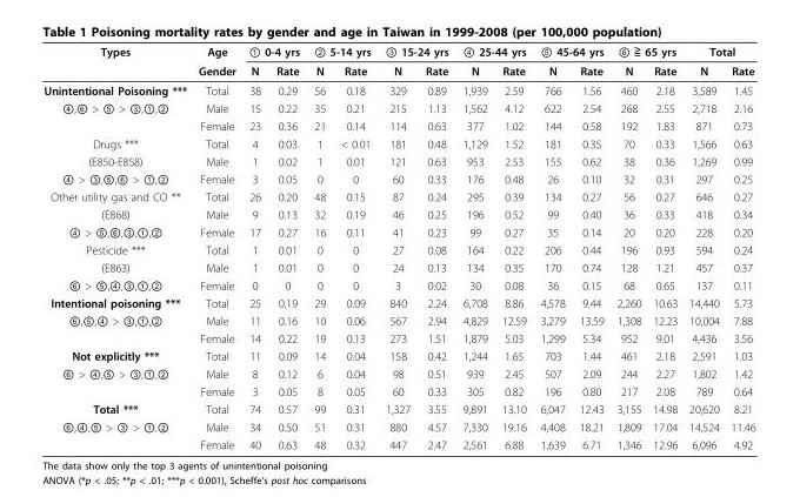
<table><thead><tr><td rowspan="2">Types</td><td rowspan="2">Age Gender</td><td colspan="2">① 0-4 yrs</td><td colspan="2">② 5-14 yrs</td><td colspan="2">③ 15-24 yrs</td><td colspan="2">④ 25-44 yrs</td><td colspan="2">⑤ 45-64 yrs</td><td colspan="2">⑥ ≧ 65 yrs</td><td colspan="2">Total</td></tr><tr><td>N</td><td>Rate</td><td>N</td><td>Rate</td><td>N</td><td>Rate</td><td>N</td><td>Rate</td><td>N</td><td>Rate</td><td>N</td><td>Rate</td><td>N</td><td>Rate</td></tr></thead><tbody><tr><td>Unintentional Poisoning ***</td><td>Total</td><td>38</td><td>0.29</td><td>56</td><td>0.18</td><td>329</td><td>0.89</td><td>1,939</td><td>2.59</td><td>766</td><td>1.56</td><td>460</td><td>2.18</td><td>3,589</td><td>1.45</td></tr><tr><td rowspan="2">④,⑥ &gt; ⑤ &gt; ③,①,②</td><td>Male</td><td>15</td><td>0.22</td><td>35</td><td>0.21</td><td>215</td><td>1.13</td><td>1,562</td><td>4.12</td><td>622</td><td>2.54</td><td>268</td><td>2.55</td><td>2,718</td><td>2.16</td></tr><tr><td>Female</td><td>23</td><td>0.36</td><td>21</td><td>0.14</td><td>114</td><td>0.63</td><td>377</td><td>1.02</td><td>144</td><td>0.58</td><td>192</td><td>1.83</td><td>871</td><td>0.73</td></tr><tr><td>Drugs ***</td><td>Total</td><td>4</td><td>0.03</td><td>1</td><td>&lt; 0.01</td><td>181</td><td>0.48</td><td>1,129</td><td>1.52</td><td>181</td><td>0.35</td><td>70</td><td>0.33</td><td>1,566</td><td>0.63</td></tr><tr><td>(E850-E858)</td><td>Male</td><td>1</td><td>0.02</td><td>1</td><td>0.01</td><td>121</td><td>0.63</td><td>953</td><td>2.53</td><td>155</td><td>0.62</td><td>38</td><td>0.36</td><td>1,269</td><td>0.99</td></tr><tr><td>④ &gt; ③,⑤,⑥ &gt; ①,②</td><td>Female</td><td>3</td><td>0.05</td><td>0</td><td>0</td><td>60</td><td>0.33</td><td>176</td><td>0.48</td><td>26</td><td>0.10</td><td>32</td><td>0.31</td><td>297</td><td>0.25</td></tr><tr><td>Other utility gas and CO **</td><td>Total</td><td>26</td><td>0.20</td><td>48</td><td>0.15</td><td>87</td><td>0.24</td><td>295</td><td>0.39</td><td>134</td><td>0.27</td><td>56</td><td>0.27</td><td>646</td><td>0.27</td></tr><tr><td>(E868)</td><td>Male</td><td>9</td><td>0.13</td><td>32</td><td>0.19</td><td>46</td><td>0.25</td><td>196</td><td>0.52</td><td>99</td><td>0.40</td><td>36</td><td>0.33</td><td>418</td><td>0.34</td></tr><tr><td>④ &gt; ⑤,⑥,③,①,②</td><td>Female</td><td>17</td><td>0.27</td><td>16</td><td>0.11</td><td>41</td><td>0.23</td><td>99</td><td>0.27</td><td>35</td><td>0.14</td><td>20</td><td>0.20</td><td>228</td><td>0.20</td></tr><tr><td>Pesticide ***</td><td>Total</td><td>1</td><td>0.01</td><td>0</td><td>0</td><td>27</td><td>0.08</td><td>164</td><td>0.22</td><td>206</td><td>0.44</td><td>196</td><td>0.93</td><td>594</td><td>0.24</td></tr><tr><td>(E863)</td><td>Male</td><td>1</td><td>0.01</td><td>0</td><td>0</td><td>24</td><td>0.13</td><td>134</td><td>0.35</td><td>170</td><td>0.74</td><td>128</td><td>1.21</td><td>457</td><td>0.37</td></tr><tr><td>⑥ &gt; ⑤,④,③,①,②</td><td>Female</td><td>0</td><td>0</td><td>0</td><td>0</td><td>3</td><td>0.02</td><td>30</td><td>0.08</td><td>36</td><td>0.15</td><td>68</td><td>0.65</td><td>137</td><td>0.11</td></tr><tr><td>Intentional poisoning ***</td><td>Total</td><td>25</td><td>0.19</td><td>29</td><td>0.09</td><td>840</td><td>2.24</td><td>6,708</td><td>8.86</td><td>4,578</td><td>9.44</td><td>2,260</td><td>10.63</td><td>14,440</td><td>5.73</td></tr><tr><td rowspan="2">⑥,⑤,④ &gt; ③,①,②</td><td>Male</td><td>11</td><td>0.16</td><td>10</td><td>0.06</td><td>567</td><td>2.94</td><td>4,829</td><td>12.59</td><td>3,279</td><td>13.59</td><td>1,308</td><td>12.23</td><td>10,004</td><td>7.88</td></tr><tr><td>Female</td><td>14</td><td>0.22</td><td>19</td><td>0.13</td><td>273</td><td>1.51</td><td>1,879</td><td>5.03</td><td>1,299</td><td>5.34</td><td>952</td><td>9.01</td><td>4,436</td><td>3.56</td></tr><tr><td>Not explicitly ***</td><td>Total</td><td>11</td><td>0.09</td><td>14</td><td>0.04</td><td>158</td><td>0.42</td><td>1,244</td><td>1.65</td><td>703</td><td>1.44</td><td>461</td><td>2.18</td><td>2,591</td><td>1.03</td></tr><tr><td rowspan="2">⑥ &gt; ④,⑤ &gt; ③,①,②</td><td>Male</td><td>8</td><td>0.12</td><td>6</td><td>0.04</td><td>98</td><td>0.51</td><td>939</td><td>2.45</td><td>507</td><td>2.09</td><td>244</td><td>2.27</td><td>1,802</td><td>1.42</td></tr><tr><td>Female</td><td>3</td><td>0.05</td><td>8</td><td>0.05</td><td>60</td><td>0.33</td><td>305</td><td>0.82</td><td>196</td><td>0.80</td><td>217</td><td>2.08</td><td>789</td><td>0.64</td></tr><tr><td>Total ***</td><td>Total</td><td>74</td><td>0.57</td><td>99</td><td>0.31</td><td>1,327</td><td>3.55</td><td>9,891</td><td>13.10</td><td>6,047</td><td>12.43</td><td>3,155</td><td>14.98</td><td>20,620</td><td>8.21</td></tr><tr><td rowspan="2">⑥,④,⑤ &gt; ③ &gt; ①,②</td><td>Male</td><td>34</td><td>0.50</td><td>51</td><td>0.31</td><td>880</td><td>4.57</td><td>7,330</td><td>19.16</td><td>4,408</td><td>18.21</td><td>1,809</td><td>17.04</td><td>14,524</td><td>11.46</td></tr><tr><td>Female</td><td>40</td><td>0.63</td><td>48</td><td>0.32</td><td>447</td><td>2.47</td><td>2,561</td><td>6.88</td><td>1,639</td><td>6.71</td><td>1,346</td><td>12.96</td><td>6,096</td><td>4.92</td></tr></tbody></table>